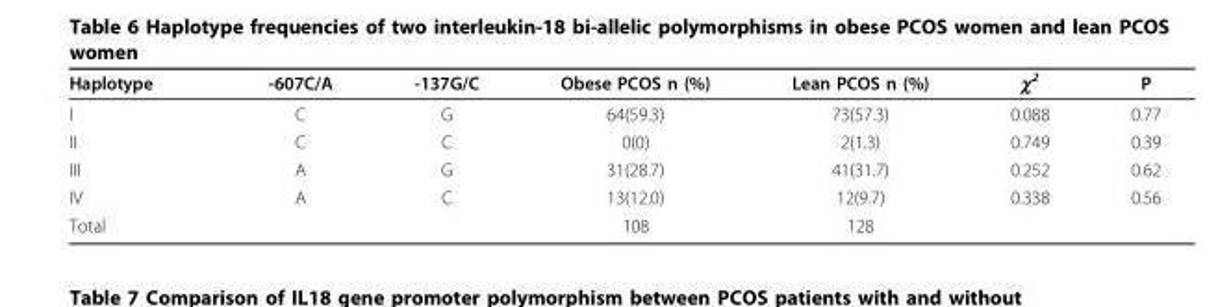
<table><thead><tr><td>Haplotype</td><td>-607C/A</td><td>-137G/C</td><td>Obese PCOS n (%)</td><td>Lean PCOS n (%)</td><td>χ<sup>2</sup></td><td>P</td></tr></thead><tbody><tr><td>I</td><td>C</td><td>G</td><td>64(59.3)</td><td>73(57.3)</td><td>0.088</td><td>0.77</td></tr><tr><td>II</td><td>C</td><td>C</td><td>0(0)</td><td>2(1.3)</td><td>0.749</td><td>0.39</td></tr><tr><td>III</td><td>A</td><td>G</td><td>31(28.7)</td><td>41(31.7)</td><td>0.252</td><td>0.62</td></tr><tr><td>IV</td><td>A</td><td>C</td><td>13(12.0)</td><td>12(9.7)</td><td>0.338</td><td>0.56</td></tr><tr><td>Total</td><td></td><td></td><td>108</td><td>128</td><td></td><td></td></tr></tbody></table>